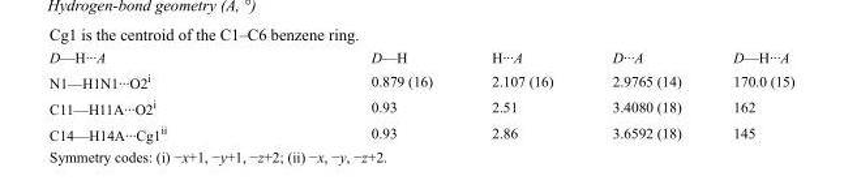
<table><tbody><tr><td>D—H···A</td><td>D—H</td><td>H···A</td><td>D···A</td><td>D—H···A</td></tr><tr><td>N1—H1N1···O2<sup>i</sup></td><td>0.879 (16)</td><td>2.107 (16)</td><td>2.9765 (14)</td><td>170.0 (15)</td></tr><tr><td>C11—H11A···O2<sup>i</sup></td><td>0.93</td><td>2.51</td><td>3.4080 (18)</td><td>162</td></tr><tr><td>C14—H14A···Cg1<sup>ii</sup></td><td>0.93</td><td>2.86</td><td>3.6592 (18)</td><td>145</td></tr></tbody></table>